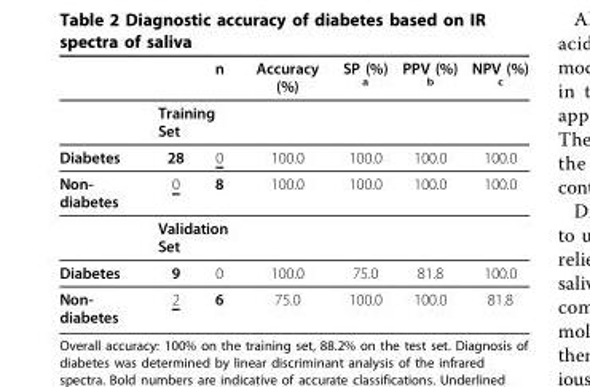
<table><thead><tr><td></td><td></td><td>n</td><td>Accuracy (%)</td><td>SP (%) <sup>a</sup></td><td>PPV (%) <sup>b</sup></td><td>NPV (%) <sup>c</sup></td></tr></thead><tbody><tr><td></td><td colspan="2">Training Set</td><td></td><td></td><td></td><td></td></tr><tr><td>Diabetes</td><td>28</td><td>0</td><td>100.0</td><td>100.0</td><td>100.0</td><td>100.0</td></tr><tr><td rowspan="2">Non- diabetes</td><td>0</td><td>8</td><td>100.0</td><td>100.0</td><td>100.0</td><td>100.0</td></tr><tr><td colspan="2">Validation Set</td><td></td><td></td><td></td><td></td></tr><tr><td>Diabetes</td><td>9</td><td>0</td><td>100.0</td><td>75.0</td><td>81.8</td><td>100.0</td></tr><tr><td>Non- diabetes</td><td>2</td><td>6</td><td>75.0</td><td>100.0</td><td>100.0</td><td>81.8</td></tr></tbody></table>